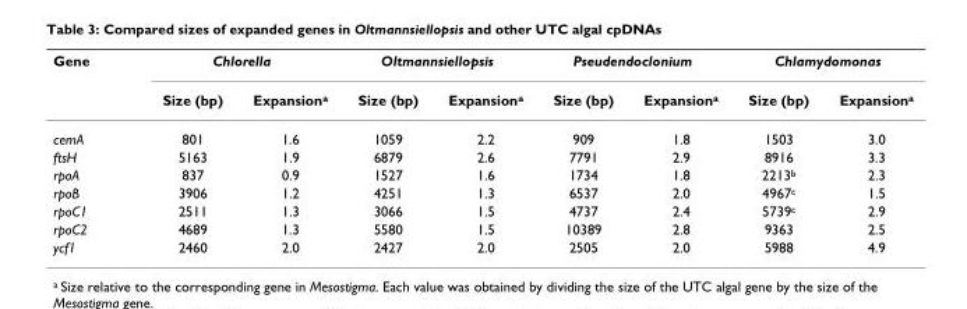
<table><thead><tr><td rowspan="2">Gene</td><td colspan="2">Chlorella</td><td colspan="2">Oltmannsiellopsis</td><td colspan="2">Pseudendoclonium</td><td colspan="2">Chlamydomonas</td></tr><tr><td>Size (bp)</td><td>Expansiona</td><td>Size (bp)</td><td>Expansiona</td><td>Size (bp)</td><td>Expansiona</td><td>Size (bp)</td><td>Expansiona</td></tr></thead><tbody><tr><td>cemA</td><td>801</td><td>1.6</td><td>1059</td><td>2.2</td><td>909</td><td>1.8</td><td>1503</td><td>3.0</td></tr><tr><td>ftsH</td><td>5163</td><td>1.9</td><td>6879</td><td>2.6</td><td>7791</td><td>2.9</td><td>8916</td><td>3.3</td></tr><tr><td>rpoA</td><td>837</td><td>0.9</td><td>1527</td><td>1.6</td><td>1734</td><td>1.8</td><td>2213b</td><td>2.3</td></tr><tr><td>rpoB</td><td>3906</td><td>1.2</td><td>4251</td><td>1.3</td><td>6537</td><td>2.0</td><td>4967c</td><td>1.5</td></tr><tr><td>rpoC1</td><td>2511</td><td>1.3</td><td>3066</td><td>1.5</td><td>4737</td><td>2.4</td><td>5739c</td><td>2.9</td></tr><tr><td>rpoC2</td><td>4689</td><td>1.3</td><td>5580</td><td>1.5</td><td>10389</td><td>2.8</td><td>9363</td><td>2.5</td></tr><tr><td>ycf1</td><td>2460</td><td>2.0</td><td>2427</td><td>2.0</td><td>2505</td><td>2.0</td><td>5988</td><td>4.9</td></tr></tbody></table>